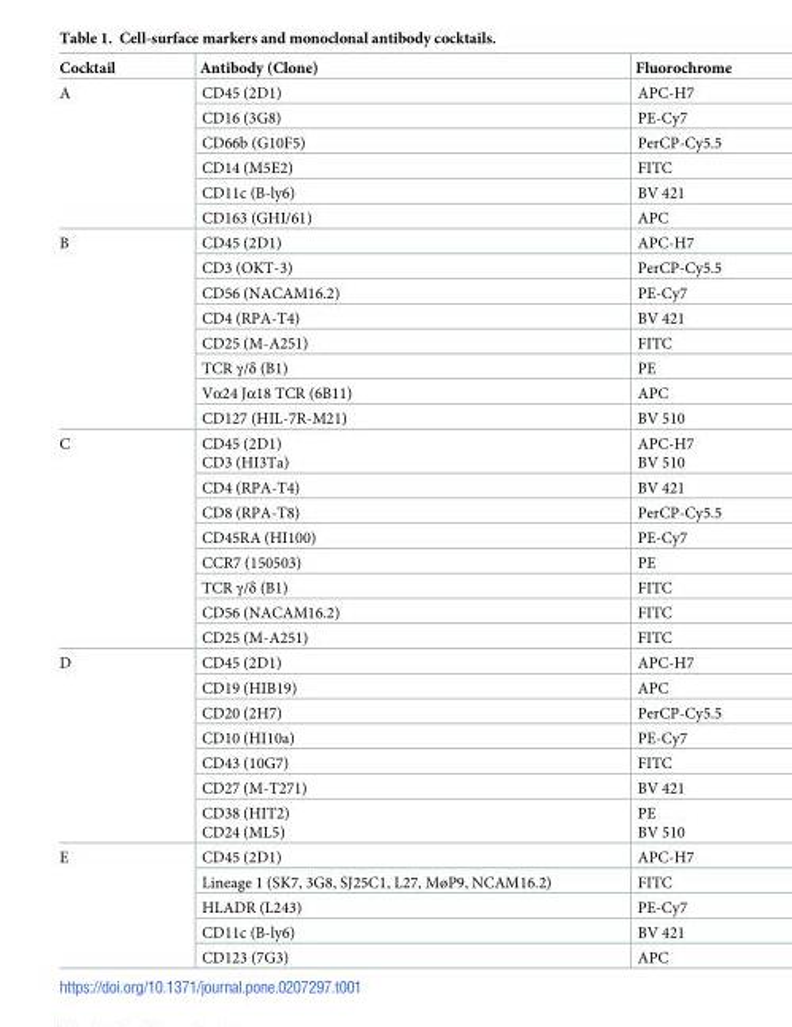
<table><thead><tr><td>Cocktail</td><td>Antibody (Clone)</td><td>Fluorochrome</td></tr></thead><tbody><tr><td rowspan="6">A</td><td>CD45 (2D1)</td><td>APC-H7</td></tr><tr><td>CD16 (3G8)</td><td>PE-Cy7</td></tr><tr><td>CD66b (G10F5)</td><td>PerCP-Cy5.5</td></tr><tr><td>CD14 (M5E2)</td><td>FITC</td></tr><tr><td>CD11c (B-ly6)</td><td>BV 421</td></tr><tr><td>CD163 (GHI/61)</td><td>APC</td></tr><tr><td rowspan="8">B</td><td>CD45 (2D1)</td><td>APC-H7</td></tr><tr><td>CD3 (OKT-3)</td><td>PerCP-Cy5.5</td></tr><tr><td>CD56 (NACAM16.2)</td><td>PE-Cy7</td></tr><tr><td>CD4 (RPA-T4)</td><td>BV 421</td></tr><tr><td>CD25 (M-A251)</td><td>FITC</td></tr><tr><td>TCR γ/δ (B1)</td><td>PE</td></tr><tr><td>Vα24 Jα18 TCR (6B11)</td><td>APC</td></tr><tr><td>CD127 (HIL-7R-M21)</td><td>BV 510</td></tr><tr><td rowspan="8">C</td><td>CD45 (2D1) CD3 (HI3Ta)</td><td>APC-H7 BV 510</td></tr><tr><td>CD4 (RPA-T4)</td><td>BV 421</td></tr><tr><td>CD8 (RPA-T8)</td><td>PerCP-Cy5.5</td></tr><tr><td>CD45RA (HI100)</td><td>PE-Cy7</td></tr><tr><td>CCR7 (150503)</td><td>PE</td></tr><tr><td>TCR γ/δ (B1)</td><td>FITC</td></tr><tr><td>CD56 (NACAM16.2)</td><td>FITC</td></tr><tr><td>CD25 (M-A251)</td><td>FITC</td></tr><tr><td rowspan="7">D</td><td>CD45 (2D1)</td><td>APC-H7</td></tr><tr><td>CD19 (HIB19)</td><td>APC</td></tr><tr><td>CD20 (2H7)</td><td>PerCP-Cy5.5</td></tr><tr><td>CD10 (HI10a)</td><td>PE-Cy7</td></tr><tr><td>CD43 (10G7)</td><td>FITC</td></tr><tr><td>CD27 (M-T271)</td><td>BV 421</td></tr><tr><td>CD38 (HIT2) CD24 (ML5)</td><td>PE BV 510</td></tr><tr><td rowspan="5">E</td><td>CD45 (2D1)</td><td>APC-H7</td></tr><tr><td>Lineage 1 (SK7, 3G8, SJ25C1, L27, MøP9, NCAM16.2)</td><td>FITC</td></tr><tr><td>HLADR (L243)</td><td>PE-Cy7</td></tr><tr><td>CD11c (B-ly6)</td><td>BV 421</td></tr><tr><td>CD123 (7G3)</td><td>APC</td></tr></tbody></table>